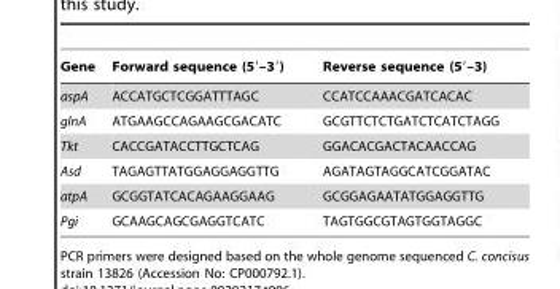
<table><thead><tr><td>Gene</td><td>Forward sequence (59–39)</td><td>Reverse sequence (59–3)</td></tr></thead><tbody><tr><td>aspA</td><td>ACCATGCTCGGATTTAGC</td><td>CCATCCAAACGATCACAC</td></tr><tr><td>glnA</td><td>ATGAAGCCAGAAGCGACATC</td><td>GCGTTCTCTGATCTCATCTAGG</td></tr><tr><td>Tkt</td><td>CACCGATACCTTGCTCAG</td><td>GGACACGACTACAACCAG</td></tr><tr><td>Asd</td><td>TAGAGTTATGGAGGAGGTTG</td><td>AGATAGTAGGCATCGGATAC</td></tr><tr><td>atpA</td><td>GCGGTATCACAGAAGGAAG</td><td>GCGGAGAATATGGAGGTTG</td></tr><tr><td>Pgi</td><td>GCAAGCAGCGAGGTCATC</td><td>TAGTGGCGTAGTGGTAGGC</td></tr></tbody></table>